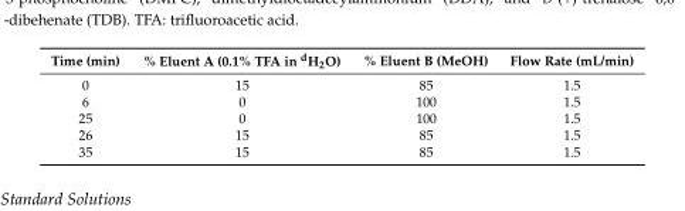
<table><thead><tr><td>Time (min)</td><td>% Eluent A (0.1% TFA in <sup>d</sup>H<sub>2</sub>O)</td><td>% Eluent B (MeOH)</td><td>Flow Rate (mL/min)</td></tr></thead><tbody><tr><td>0</td><td>15</td><td>85</td><td>1.5</td></tr><tr><td>6</td><td>0</td><td>100</td><td>1.5</td></tr><tr><td>25</td><td>0</td><td>100</td><td>1.5</td></tr><tr><td>26</td><td>15</td><td>85</td><td>1.5</td></tr><tr><td>35</td><td>15</td><td>85</td><td>1.5</td></tr></tbody></table>